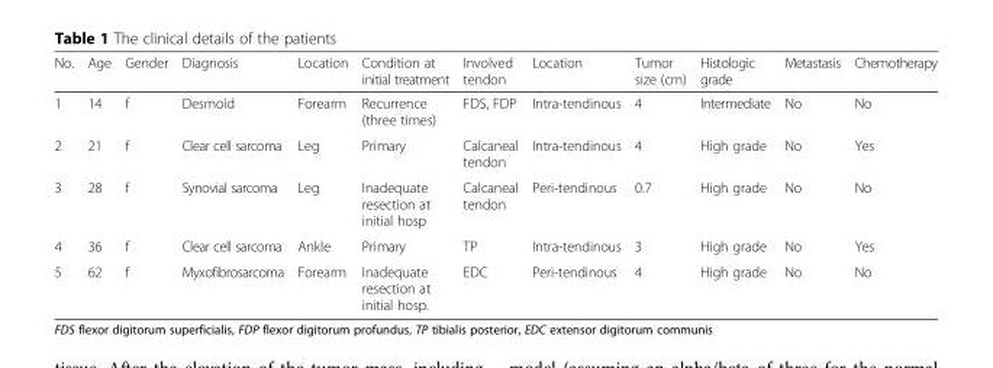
<table><thead><tr><td>No.</td><td>Age</td><td>Gender</td><td>Diagnosis</td><td>Location</td><td>Condition at initial treatment</td><td>Involved tendon</td><td>Location</td><td>Tumor size (cm)</td><td>Histologic grade</td><td>Metastasis</td><td>Chemotherapy</td></tr></thead><tbody><tr><td>1</td><td>14</td><td>f</td><td>Desmoid</td><td>Forearm</td><td>Recurrence (three times)</td><td>FDS, FDP</td><td>Intra-tendinous</td><td>4</td><td>Intermediate</td><td>No</td><td>No</td></tr><tr><td>2</td><td>21</td><td>f</td><td>Clear cell sarcoma</td><td>Leg</td><td>Primary</td><td>Calcaneal tendon</td><td>Intra-tendinous</td><td>4</td><td>High grade</td><td>No</td><td>Yes</td></tr><tr><td>3</td><td>28</td><td>f</td><td>Synovial sarcoma</td><td>Leg</td><td>Inadequate resection at initial hosp</td><td>Calcaneal tendon</td><td>Peri-tendinous</td><td>0.7</td><td>High grade</td><td>No</td><td>No</td></tr><tr><td>4</td><td>36</td><td>f</td><td>Clear cell sarcoma</td><td>Ankle</td><td>Primary</td><td>TP</td><td>Intra-tendinous</td><td>3</td><td>High grade</td><td>No</td><td>Yes</td></tr><tr><td>5</td><td>62</td><td>f</td><td>Myxofibrosarcoma</td><td>Forearm</td><td>Inadequate resection at initial hosp.</td><td>EDC</td><td>Peri-tendinous</td><td>4</td><td>High grade</td><td>No</td><td>No</td></tr></tbody></table>